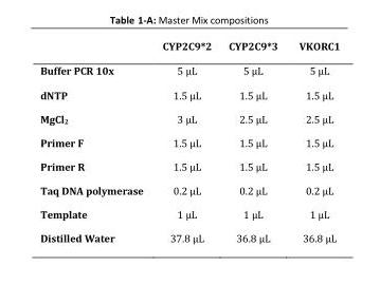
<table><thead><tr><td></td><td>CYP2C9*2</td><td>CYP2C9*3</td><td>VKORC1</td></tr></thead><tbody><tr><td>Buffer PCR 10x</td><td>5 µL</td><td>5 µL</td><td>5 µL</td></tr><tr><td>dNTP</td><td>1.5 µL</td><td>1.5 µL</td><td>1.5 µL</td></tr><tr><td>MgCl<sub>2</sub></td><td>3 µL</td><td>2.5 µL</td><td>2.5 µL</td></tr><tr><td>Primer F</td><td>1.5 µL</td><td>1.5 µL</td><td>1.5 µL</td></tr><tr><td>Primer R</td><td>1.5 µL</td><td>1.5 µL</td><td>1.5 µL</td></tr><tr><td>Taq DNA polymerase</td><td>0.2 µL</td><td>0.2 µL</td><td>0.2 µL</td></tr><tr><td>Template</td><td>1 µL</td><td>1 µL</td><td>1 µL</td></tr><tr><td>Distilled Water</td><td>37.8 µL</td><td>36.8 µL</td><td>36.8 µL</td></tr></tbody></table>